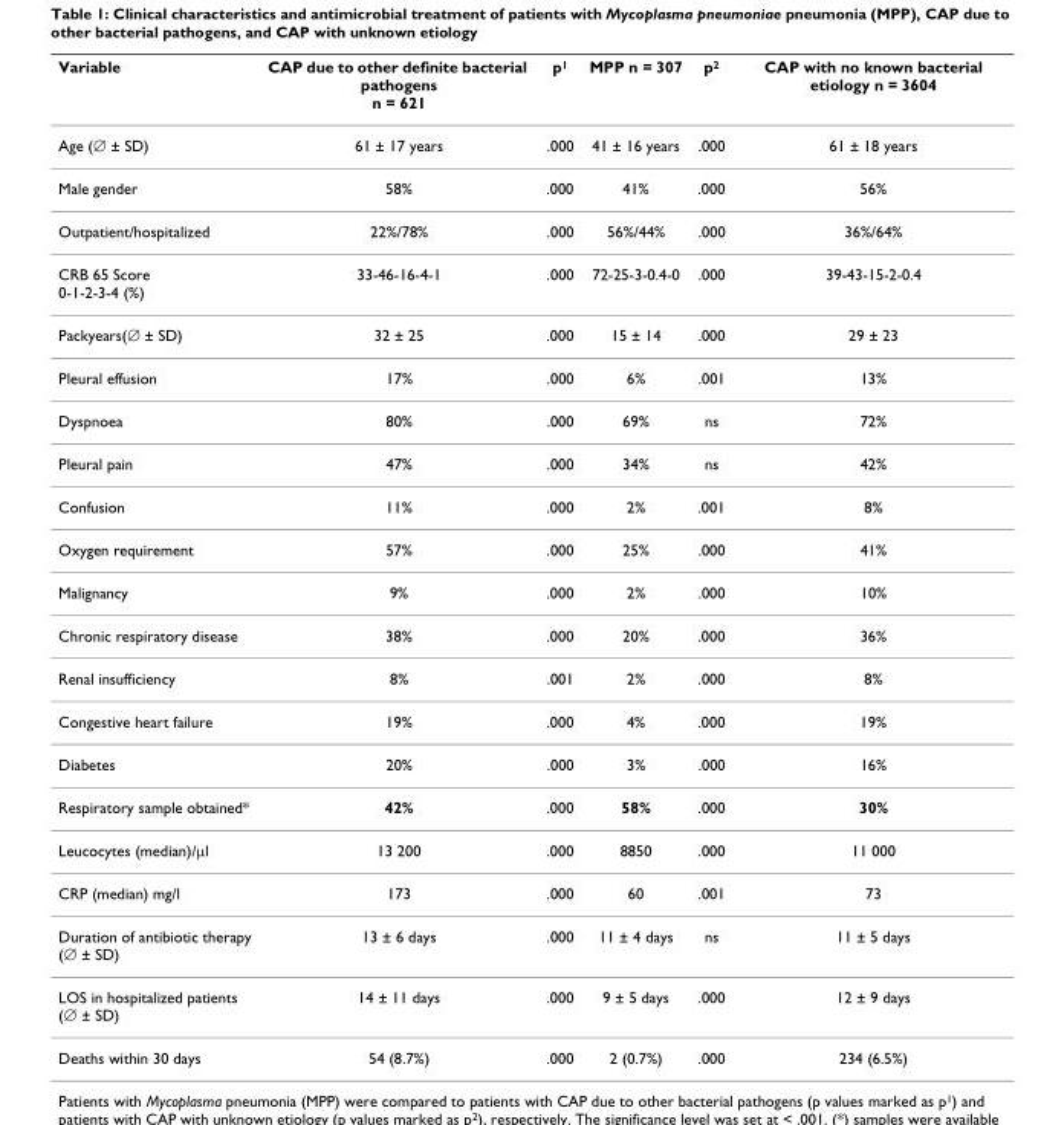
<table><thead><tr><td>Variable</td><td>CAP due to other definite bacterial pathogens n = 621</td><td>p<sup>1</sup></td><td>MPP n = 307</td><td>p<sup>2</sup></td><td>CAP with no known bacterial etiology n = 3604</td></tr></thead><tbody><tr><td>Age (∅ ± SD)</td><td>61 ± 17 years</td><td>.000</td><td>41 ± 16 years</td><td>.000</td><td>61 ± 18 years</td></tr><tr><td>Male gender</td><td>58%</td><td>.000</td><td>41%</td><td>.000</td><td>56%</td></tr><tr><td>Outpatient/hospitalized</td><td>22%/78%</td><td>.000</td><td>56%/44%</td><td>.000</td><td>36%/64%</td></tr><tr><td>CRB 65 Score 0-1-2-3-4 (%)</td><td>33-46-16-4-1</td><td>.000</td><td>72-25-3-0.4-0</td><td>.000</td><td>39-43-15-2-0.4</td></tr><tr><td>Packyears(∅ ± SD)</td><td>32 ± 25</td><td>.000</td><td>15 ± 14</td><td>.000</td><td>29 ± 23</td></tr><tr><td>Pleural effusion</td><td>17%</td><td>.000</td><td>6%</td><td>.001</td><td>13%</td></tr><tr><td>Dyspnoea</td><td>80%</td><td>.000</td><td>69%</td><td>ns</td><td>72%</td></tr><tr><td>Pleural pain</td><td>47%</td><td>.000</td><td>34%</td><td>ns</td><td>42%</td></tr><tr><td>Confusion</td><td>11%</td><td>.000</td><td>2%</td><td>.001</td><td>8%</td></tr><tr><td>Oxygen requirement</td><td>57%</td><td>.000</td><td>25%</td><td>.000</td><td>41%</td></tr><tr><td>Malignancy</td><td>9%</td><td>.000</td><td>2%</td><td>.000</td><td>10%</td></tr><tr><td>Chronic respiratory disease</td><td>38%</td><td>.000</td><td>20%</td><td>.000</td><td>36%</td></tr><tr><td>Renal insufficiency</td><td>8%</td><td>.001</td><td>2%</td><td>.000</td><td>8%</td></tr><tr><td>Congestive heart failure</td><td>19%</td><td>.000</td><td>4%</td><td>.000</td><td>19%</td></tr><tr><td>Diabetes</td><td>20%</td><td>.000</td><td>3%</td><td>.000</td><td>16%</td></tr><tr><td>Respiratory sample obtained*</td><td>42%</td><td>.000</td><td>58%</td><td>.000</td><td>30%</td></tr><tr><td>Leucocytes (median)/μl</td><td>13 200</td><td>.000</td><td>8850</td><td>.000</td><td>11 000</td></tr><tr><td>CRP (median) mg/l</td><td>173</td><td>.000</td><td>60</td><td>.001</td><td>73</td></tr><tr><td>Duration of antibiotic therapy (∅ ± SD)</td><td>13 ± 6 days</td><td>.000</td><td>11 ± 4 days</td><td>ns</td><td>11 ± 5 days</td></tr><tr><td>LOS in hospitalized patients (∅ ± SD)</td><td>14 ± 11 days</td><td>.000</td><td>9 ± 5 days</td><td>.000</td><td>12 ± 9 days</td></tr><tr><td>Deaths within 30 days</td><td>54 (8.7%)</td><td>.000</td><td>2 (0.7%)</td><td>.000</td><td>234 (6.5%)</td></tr></tbody></table>